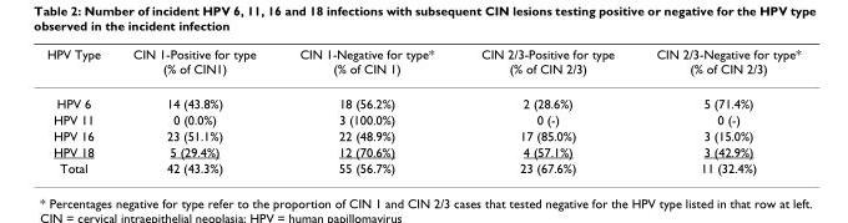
<table><thead><tr><td>HPV Type</td><td>CIN 1-Positive for type (% of CIN1)</td><td>CIN 1-Negative for type* (% of CIN 1)</td><td>CIN 2/3-Positive for type (% of CIN 2/3)</td><td>CIN 2/3-Negative for type* (% of CIN 2/3)</td></tr></thead><tbody><tr><td>HPV 6</td><td>14 (43.8%)</td><td>18 (56.2%)</td><td>2 (28.6%)</td><td>5 (71.4%)</td></tr><tr><td>HPV 11</td><td>0 (0.0%)</td><td>3 (100.0%)</td><td>0 (-)</td><td>0 (-)</td></tr><tr><td>HPV 16</td><td>23 (51.1%)</td><td>22 (48.9%)</td><td>17 (85.0%)</td><td>3 (15.0%)</td></tr><tr><td>HPV 18</td><td>5 (29.4%)</td><td>12 (70.6%)</td><td>4 (57.1%)</td><td>3 (42.9%)</td></tr><tr><td>Total</td><td>42 (43.3%)</td><td>55 (56.7%)</td><td>23 (67.6%)</td><td>11 (32.4%)</td></tr></tbody></table>